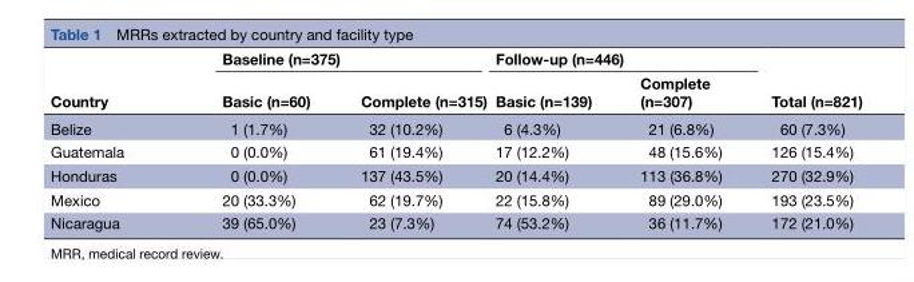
<table><thead><tr><td rowspan="2">Country</td><td colspan="2">Baseline (n=375)</td><td colspan="2">Follow-up (n=446)</td><td rowspan="2">Total (n=821)</td></tr><tr><td>Basic (n=60)</td><td>Complete (n=315)</td><td>Basic (n=139)</td><td>Complete (n=307)</td></tr></thead><tbody><tr><td>Belize</td><td>1 (1.7%)</td><td>32 (10.2%)</td><td>6 (4.3%)</td><td>21 (6.8%)</td><td>60 (7.3%)</td></tr><tr><td>Guatemala</td><td>0 (0.0%)</td><td>61 (19.4%)</td><td>17 (12.2%)</td><td>48 (15.6%)</td><td>126 (15.4%)</td></tr><tr><td>Honduras</td><td>0 (0.0%)</td><td>137 (43.5%)</td><td>20 (14.4%)</td><td>113 (36.8%)</td><td>270 (32.9%)</td></tr><tr><td>Mexico</td><td>20 (33.3%)</td><td>62 (19.7%)</td><td>22 (15.8%)</td><td>89 (29.0%)</td><td>193 (23.5%)</td></tr><tr><td>Nicaragua</td><td>39 (65.0%)</td><td>23 (7.3%)</td><td>74 (53.2%)</td><td>36 (11.7%)</td><td>172 (21.0%)</td></tr></tbody></table>